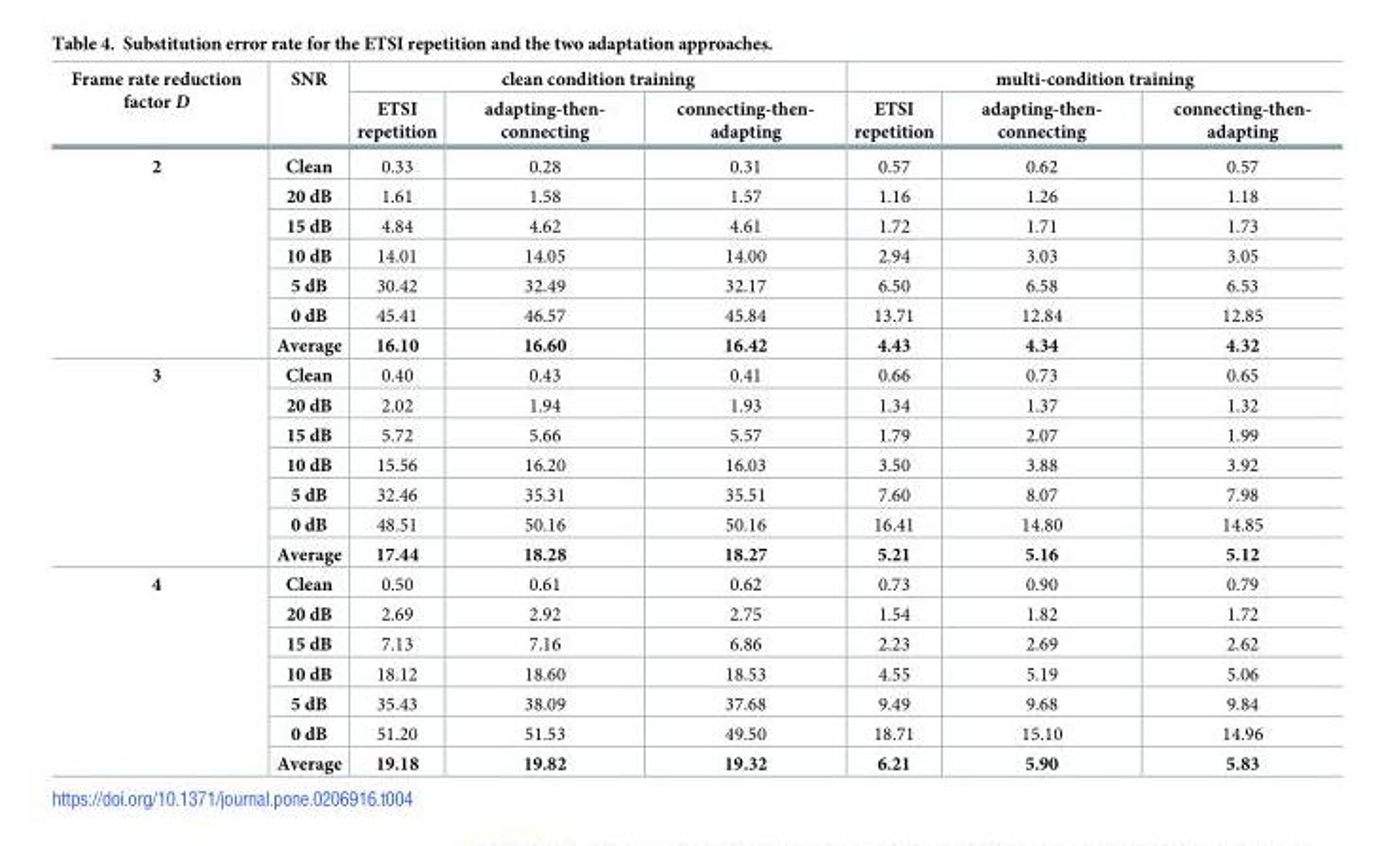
<table><thead><tr><td rowspan="2">Frame rate reduction factor D</td><td rowspan="2">SNR</td><td colspan="3">clean condition training</td><td colspan="3">multi-condition training</td></tr><tr><td>ETSI repetition</td><td>adapting-then- connecting</td><td>connecting-then- adapting</td><td>ETSI repetition</td><td>adapting-then- connecting</td><td>connecting-then- adapting</td></tr></thead><tbody><tr><td rowspan="7">2</td><td>Clean</td><td>0.33</td><td>0.28</td><td>0.31</td><td>0.57</td><td>0.62</td><td>0.57</td></tr><tr><td>20 dB</td><td>1.61</td><td>1.58</td><td>1.57</td><td>1.16</td><td>1.26</td><td>1.18</td></tr><tr><td>15 dB</td><td>4.84</td><td>4.62</td><td>4.61</td><td>1.72</td><td>1.71</td><td>1.73</td></tr><tr><td>10 dB</td><td>14.01</td><td>14.05</td><td>14.00</td><td>2.94</td><td>3.03</td><td>3.05</td></tr><tr><td>5 dB</td><td>30.42</td><td>32.49</td><td>32.17</td><td>6.50</td><td>6.58</td><td>6.53</td></tr><tr><td>0 dB</td><td>45.41</td><td>46.57</td><td>45.84</td><td>13.71</td><td>12.84</td><td>12.85</td></tr><tr><td>Average</td><td>16.10</td><td>16.60</td><td>16.42</td><td>4.43</td><td>4.34</td><td>4.32</td></tr><tr><td rowspan="7">3</td><td>Clean</td><td>0.40</td><td>0.43</td><td>0.41</td><td>0.66</td><td>0.73</td><td>0.65</td></tr><tr><td>20 dB</td><td>2.02</td><td>1.94</td><td>1.93</td><td>1.34</td><td>1.37</td><td>1.32</td></tr><tr><td>15 dB</td><td>5.72</td><td>5.66</td><td>5.57</td><td>1.79</td><td>2.07</td><td>1.99</td></tr><tr><td>10 dB</td><td>15.56</td><td>16.20</td><td>16.03</td><td>3.50</td><td>3.88</td><td>3.92</td></tr><tr><td>5 dB</td><td>32.46</td><td>35.31</td><td>35.51</td><td>7.60</td><td>8.07</td><td>7.98</td></tr><tr><td>0 dB</td><td>48.51</td><td>50.16</td><td>50.16</td><td>16.41</td><td>14.80</td><td>14.85</td></tr><tr><td>Average</td><td>17.44</td><td>18.28</td><td>18.27</td><td>5.21</td><td>5.16</td><td>5.12</td></tr><tr><td rowspan="7">4</td><td>Clean</td><td>0.50</td><td>0.61</td><td>0.62</td><td>0.73</td><td>0.90</td><td>0.79</td></tr><tr><td>20 dB</td><td>2.69</td><td>2.92</td><td>2.75</td><td>1.54</td><td>1.82</td><td>1.72</td></tr><tr><td>15 dB</td><td>7.13</td><td>7.16</td><td>6.86</td><td>2.23</td><td>2.69</td><td>2.62</td></tr><tr><td>10 dB</td><td>18.12</td><td>18.60</td><td>18.53</td><td>4.55</td><td>5.19</td><td>5.06</td></tr><tr><td>5 dB</td><td>35.43</td><td>38.09</td><td>37.68</td><td>9.49</td><td>9.68</td><td>9.84</td></tr><tr><td>0 dB</td><td>51.20</td><td>51.53</td><td>49.50</td><td>18.71</td><td>15.10</td><td>14.96</td></tr><tr><td>Average</td><td>19.18</td><td>19.82</td><td>19.32</td><td>6.21</td><td>5.90</td><td>5.83</td></tr></tbody></table>